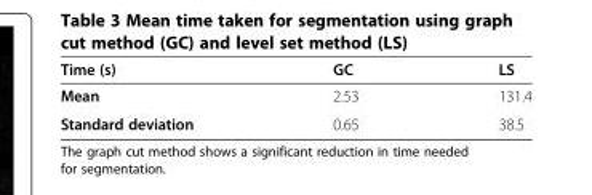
<table><thead><tr><td>Time (s)</td><td>GC</td><td>LS</td></tr></thead><tbody><tr><td>Mean</td><td>2.53</td><td>131.4</td></tr><tr><td>Standard deviation</td><td>0.65</td><td>38.5</td></tr></tbody></table>